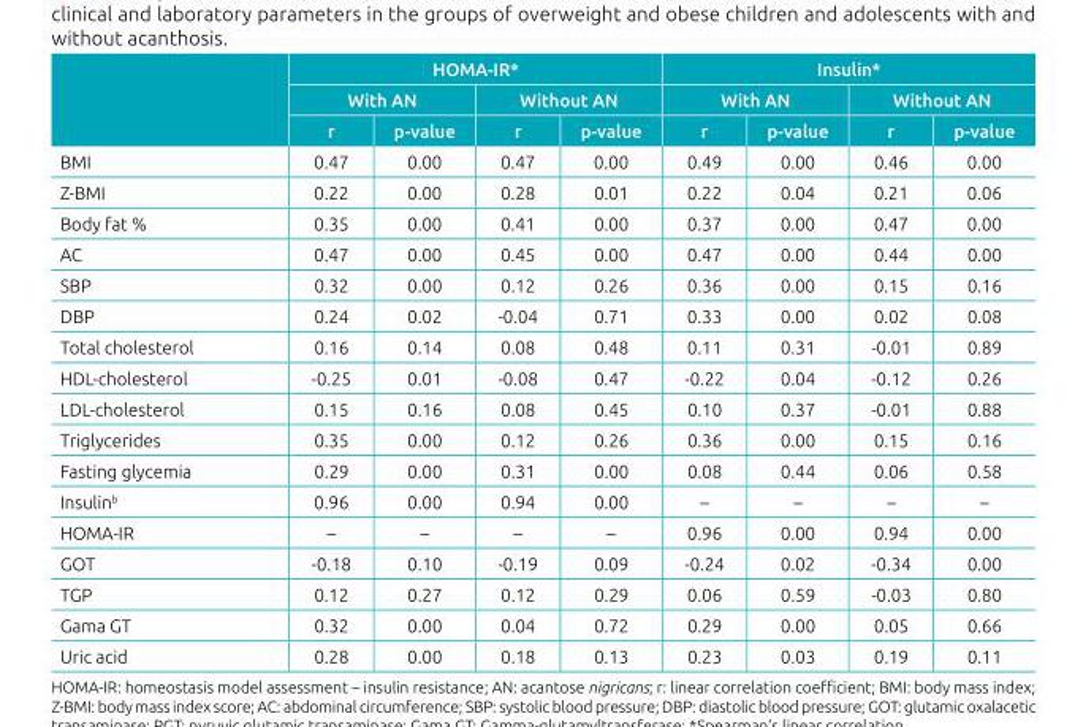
<table><thead><tr><td rowspan="3"></td><td colspan="4">HOMA‑IR*</td><td colspan="4">Insulin*</td></tr><tr><td colspan="2">With AN</td><td colspan="2">Without AN</td><td colspan="2">With AN</td><td colspan="2">Without AN</td></tr><tr><td>r</td><td>p‑value</td><td>r</td><td>p‑value</td><td>r</td><td>p‑value</td><td>r</td><td>p‑value</td></tr></thead><tbody><tr><td>BMI</td><td>0.47</td><td>0.00</td><td>0.47</td><td>0.00</td><td>0.49</td><td>0.00</td><td>0.46</td><td>0.00</td></tr><tr><td>Z-BMI</td><td>0.22</td><td>0.00</td><td>0.28</td><td>0.01</td><td>0.22</td><td>0.04</td><td>0.21</td><td>0.06</td></tr><tr><td>Body fat %</td><td>0.35</td><td>0.00</td><td>0.41</td><td>0.00</td><td>0.37</td><td>0.00</td><td>0.47</td><td>0.00</td></tr><tr><td>AC</td><td>0.47</td><td>0.00</td><td>0.45</td><td>0.00</td><td>0.47</td><td>0.00</td><td>0.44</td><td>0.00</td></tr><tr><td>SBP</td><td>0.32</td><td>0.00</td><td>0.12</td><td>0.26</td><td>0.36</td><td>0.00</td><td>0.15</td><td>0.16</td></tr><tr><td>DBP</td><td>0.24</td><td>0.02</td><td>-0.04</td><td>0.71</td><td>0.33</td><td>0.00</td><td>0.02</td><td>0.08</td></tr><tr><td>Total cholesterol</td><td>0.16</td><td>0.14</td><td>0.08</td><td>0.48</td><td>0.11</td><td>0.31</td><td>-0.01</td><td>0.89</td></tr><tr><td>HDL-cholesterol</td><td>-0.25</td><td>0.01</td><td>-0.08</td><td>0.47</td><td>-0.22</td><td>0.04</td><td>-0.12</td><td>0.26</td></tr><tr><td>LDL-cholesterol</td><td>0.15</td><td>0.16</td><td>0.08</td><td>0.45</td><td>0.10</td><td>0.37</td><td>-0.01</td><td>0.88</td></tr><tr><td>Triglycerides</td><td>0.35</td><td>0.00</td><td>0.12</td><td>0.26</td><td>0.36</td><td>0.00</td><td>0.15</td><td>0.16</td></tr><tr><td>Fasting glycemia</td><td>0.29</td><td>0.00</td><td>0.31</td><td>0.00</td><td>0.08</td><td>0.44</td><td>0.06</td><td>0.58</td></tr><tr><td>Insulin<sup>b</sup></td><td>0.96</td><td>0.00</td><td>0.94</td><td>0.00</td><td>–</td><td>–</td><td>–</td><td>–</td></tr><tr><td>HOMA-IR</td><td>–</td><td>–</td><td>–</td><td>–</td><td>0.96</td><td>0.00</td><td>0.94</td><td>0.00</td></tr><tr><td>GOT</td><td>-0.18</td><td>0.10</td><td>-0.19</td><td>0.09</td><td>-0.24</td><td>0.02</td><td>-0.34</td><td>0.00</td></tr><tr><td>TGP</td><td>0.12</td><td>0.27</td><td>0.12</td><td>0.29</td><td>0.06</td><td>0.59</td><td>-0.03</td><td>0.80</td></tr><tr><td>Gama GT</td><td>0.32</td><td>0.00</td><td>0.04</td><td>0.72</td><td>0.29</td><td>0.00</td><td>0.05</td><td>0.66</td></tr><tr><td>Uric acid</td><td>0.28</td><td>0.00</td><td>0.18</td><td>0.13</td><td>0.23</td><td>0.03</td><td>0.19</td><td>0.11</td></tr></tbody></table>